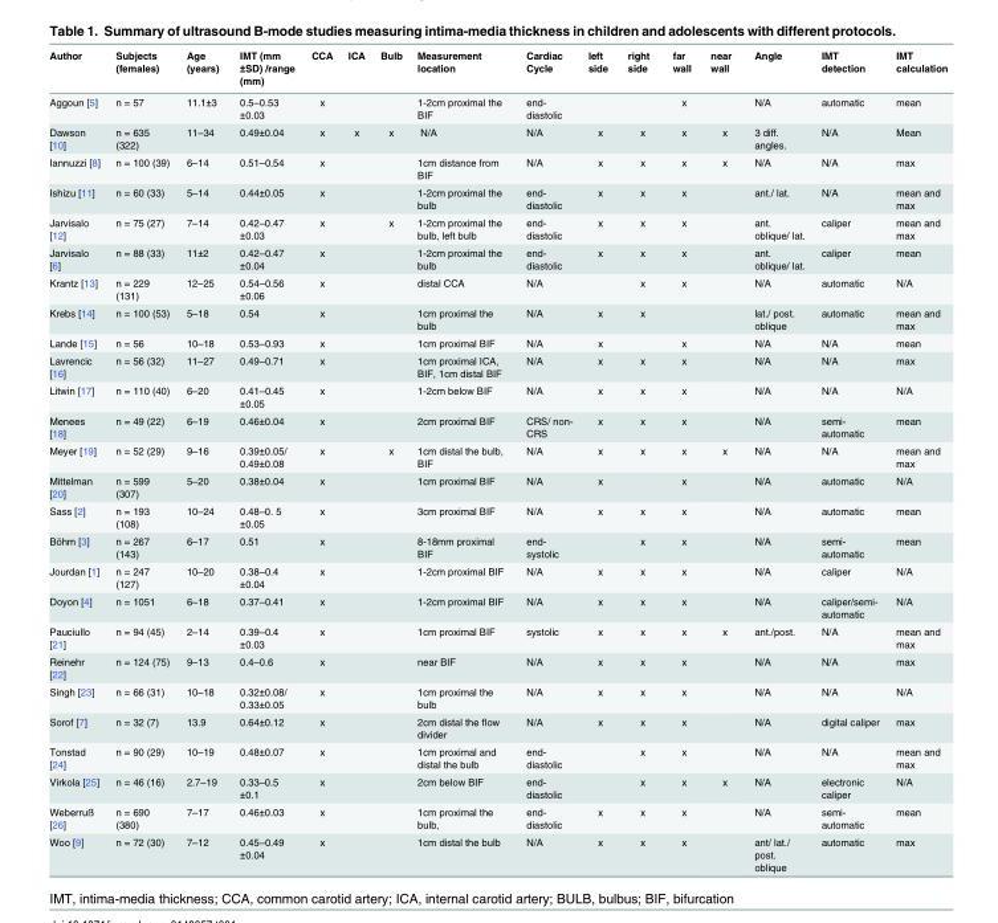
<table><thead><tr><td>Author</td><td>Subjects (females)</td><td>Age (years)</td><td>IMT (mm ±SD) /range (mm)</td><td>CCA</td><td>ICA</td><td>Bulb</td><td>Measurement location</td><td>Cardiac Cycle</td><td>left side</td><td>right side</td><td>far wall</td><td>near wall</td><td>Angle</td><td>IMT detection</td><td>IMT calculation</td></tr></thead><tbody><tr><td>Aggoun [5]</td><td>n = 57</td><td>11.1±3</td><td>0.5–0.53 ±0.03</td><td>x</td><td></td><td></td><td>1-2cm proximal the BIF</td><td>end- diastolic</td><td></td><td></td><td>x</td><td></td><td>N/A</td><td>automatic</td><td>mean</td></tr><tr><td>Dawson [10]</td><td>n = 635 (322)</td><td>11–34</td><td>0.49±0.04</td><td>x</td><td>x</td><td>x</td><td>N/A</td><td>N/A</td><td>x</td><td>x</td><td>x</td><td>x</td><td>3 diff. angles.</td><td>N/A</td><td>Mean</td></tr><tr><td>Iannuzzi [8]</td><td>n = 100 (39)</td><td>6–14</td><td>0.51–0.54</td><td>x</td><td></td><td></td><td>1cm distance from BIF</td><td>N/A</td><td>x</td><td>x</td><td>x</td><td>x</td><td>N/A</td><td>N/A</td><td>max</td></tr><tr><td>Ishizu [11]</td><td>n = 60 (33)</td><td>5–14</td><td>0.44±0.05</td><td>x</td><td></td><td></td><td>1-2cm proximal the bulb</td><td>end- diastolic</td><td>x</td><td>x</td><td>x</td><td></td><td>ant./ lat.</td><td>N/A</td><td>mean and max</td></tr><tr><td>Jarvisalo [12]</td><td>n = 75 (27)</td><td>7–14</td><td>0.42–0.47 ±0.03</td><td>x</td><td></td><td>x</td><td>1-2cm proximal the bulb, left bulb</td><td>end- diastolic</td><td>x</td><td>x</td><td>x</td><td></td><td>ant. oblique/ lat.</td><td>caliper</td><td>mean and max</td></tr><tr><td>Jarvisalo [6]</td><td>n = 88 (33)</td><td>11±2</td><td>0.42–0.47 ±0.04</td><td>x</td><td></td><td></td><td>1-2cm proximal the bulb</td><td>end- diastolic</td><td>x</td><td>x</td><td>x</td><td></td><td>ant. oblique/ lat.</td><td>caliper</td><td>mean</td></tr><tr><td>Krantz [13]</td><td>n = 229 (131)</td><td>12–25</td><td>0.54–0.56 ±0.06</td><td>x</td><td></td><td></td><td>distal CCA</td><td>N/A</td><td></td><td>x</td><td>x</td><td></td><td>N/A</td><td>automatic</td><td>N/A</td></tr><tr><td>Krebs [14]</td><td>n = 100 (53)</td><td>5–18</td><td>0.54</td><td>x</td><td></td><td></td><td>1cm proximal the bulb</td><td>N/A</td><td>x</td><td>x</td><td></td><td></td><td>lat./ post. oblique</td><td>automatic</td><td>mean and max</td></tr><tr><td>Lande [15]</td><td>n = 56</td><td>10–18</td><td>0.53–0.93</td><td>x</td><td></td><td></td><td>1cm proximal BIF</td><td>N/A</td><td>x</td><td></td><td>x</td><td></td><td>N/A</td><td>N/A</td><td>mean</td></tr><tr><td>Lavrencic [16]</td><td>n = 56 (32)</td><td>11–27</td><td>0.49–0.71</td><td>x</td><td></td><td></td><td>1cm proximal ICA, BIF, 1cm distal BIF</td><td>N/A</td><td>x</td><td>x</td><td>x</td><td></td><td>N/A</td><td>N/A</td><td>max</td></tr><tr><td>Litwin [17]</td><td>n = 110 (40)</td><td>6–20</td><td>0.41–0.45 ±0.05</td><td>x</td><td></td><td></td><td>1-2cm below BIF</td><td>N/A</td><td>x</td><td>x</td><td>x</td><td></td><td>N/A</td><td>N/A</td><td>N/A</td></tr><tr><td>Menees [18]</td><td>n = 49 (22)</td><td>6–19</td><td>0.46±0.04</td><td>x</td><td></td><td></td><td>2cm proximal BIF</td><td>CRS/ non- CRS</td><td>x</td><td>x</td><td>x</td><td></td><td>N/A</td><td>semi- automatic</td><td>mean</td></tr><tr><td>Meyer [19]</td><td>n = 52 (29)</td><td>9–16</td><td>0.39±0.05/ 0.49±0.08</td><td>x</td><td></td><td>x</td><td>1cm distal the bulb, BIF</td><td>N/A</td><td>x</td><td>x</td><td>x</td><td>x</td><td>N/A</td><td>N/A</td><td>mean and max</td></tr><tr><td>Mittelman [20]</td><td>n = 599 (307)</td><td>5–20</td><td>0.38±0.04</td><td>x</td><td></td><td></td><td>1cm proximal BIF</td><td>N/A</td><td>x</td><td></td><td>x</td><td></td><td>N/A</td><td>automatic</td><td>N/A</td></tr><tr><td>Sass [2]</td><td>n = 193 (108)</td><td>10–24</td><td>0.48–0. 5 ±0.05</td><td>x</td><td></td><td></td><td>3cm proximal BIF</td><td>N/A</td><td>x</td><td>x</td><td>x</td><td></td><td>N/A</td><td>automatic</td><td>mean</td></tr><tr><td>Böhm [3]</td><td>n = 267 (143)</td><td>6–17</td><td>0.51</td><td>x</td><td></td><td></td><td>8-18mm proximal BIF</td><td>end- systolic</td><td></td><td>x</td><td>x</td><td></td><td>N/A</td><td>semi- automatic</td><td>mean</td></tr><tr><td>Jourdan [1]</td><td>n = 247 (127)</td><td>10–20</td><td>0.38–0.4 ±0.04</td><td>x</td><td></td><td></td><td>1-2cm proximal BIF</td><td>N/A</td><td>x</td><td>x</td><td>x</td><td></td><td>N/A</td><td>caliper</td><td>N/A</td></tr><tr><td>Doyon [4]</td><td>n = 1051</td><td>6–18</td><td>0.37–0.41</td><td>x</td><td></td><td></td><td>1-2cm proximal BIF</td><td>N/A</td><td>x</td><td>x</td><td>x</td><td></td><td>N/A</td><td>caliper/semi- automatic</td><td>N/A</td></tr><tr><td>Pauciullo [21]</td><td>n = 94 (45)</td><td>2–14</td><td>0.39–0.4 ±0.03</td><td>x</td><td></td><td></td><td>1cm proximal BIF</td><td>systolic</td><td>x</td><td>x</td><td>x</td><td>x</td><td>ant./post.</td><td>N/A</td><td>mean and max</td></tr><tr><td>Reinehr [22]</td><td>n = 124 (75)</td><td>9–13</td><td>0.4–0.6</td><td>x</td><td></td><td></td><td>near BIF</td><td>N/A</td><td>x</td><td>x</td><td>x</td><td></td><td>N/A</td><td>N/A</td><td>max</td></tr><tr><td>Singh [23]</td><td>n = 66 (31)</td><td>10–18</td><td>0.32±0.08/ 0.33±0.05</td><td>x</td><td></td><td></td><td>1cm proximal the bulb</td><td>N/A</td><td>x</td><td>x</td><td>x</td><td></td><td>N/A</td><td>N/A</td><td>N/A</td></tr><tr><td>Sorof [7]</td><td>n = 32 (7)</td><td>13.9</td><td>0.64±0.12</td><td>x</td><td></td><td></td><td>2cm distal the flow divider</td><td>N/A</td><td>x</td><td>x</td><td>x</td><td></td><td>N/A</td><td>digital caliper</td><td>max</td></tr><tr><td>Tonstad [24]</td><td>n = 90 (29)</td><td>10–19</td><td>0.48±0.07</td><td>x</td><td></td><td></td><td>1cm proximal and distal the bulb</td><td>end- diastolic</td><td></td><td>x</td><td>x</td><td></td><td>N/A</td><td>N/A</td><td>mean and max</td></tr><tr><td>Virkola [25]</td><td>n = 46 (16)</td><td>2.7–19</td><td>0.33–0.5 ±0.1</td><td>x</td><td></td><td></td><td>2cm below BIF</td><td>end- diastolic</td><td></td><td>x</td><td>x</td><td>x</td><td>N/A</td><td>electronic caliper</td><td>N/A</td></tr><tr><td>Weberruß [26]</td><td>n = 690 (380)</td><td>7–17</td><td>0.46±0.03</td><td>x</td><td></td><td></td><td>1cm proximal the bulb,</td><td>end- diastolic</td><td>x</td><td>x</td><td>x</td><td></td><td>N/A</td><td>semi- automatic</td><td>mean</td></tr><tr><td>Woo [9]</td><td>n = 72 (30)</td><td>7–12</td><td>0.45–0.49 ±0.04</td><td>x</td><td></td><td></td><td>1cm distal the bulb</td><td>N/A</td><td>x</td><td>x</td><td>x</td><td></td><td>ant/ lat./ post. oblique</td><td>automatic</td><td>max</td></tr></tbody></table>